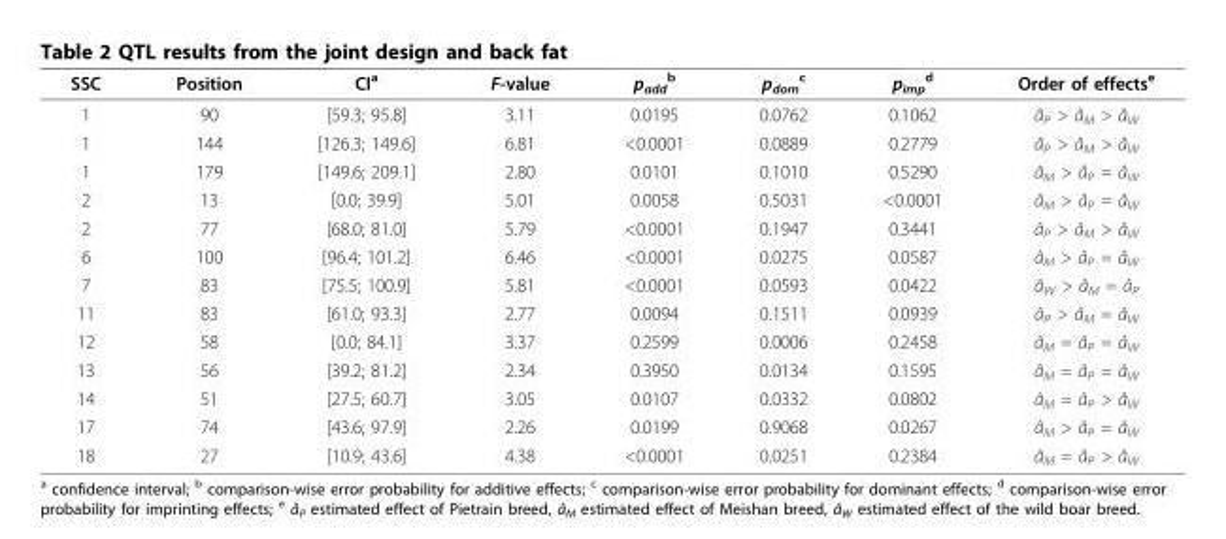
<table><thead><tr><td>SSC</td><td>Position</td><td>CI<sup>a</sup></td><td>F-value</td><td>p<sub>add</sub> <sup>b</sup></td><td>p<sub>dom</sub> <sup>c</sup></td><td>p<sub>imp</sub> <sup>d</sup></td><td>Order of effects<sup>e</sup></td></tr></thead><tbody><tr><td>1</td><td>90</td><td>[59.3; 95.8]</td><td>3.11</td><td>0.0195</td><td>0.0762</td><td>0.1062</td><td>â<sub>P</sub> &gt; â<sub>M</sub> &gt; â<sub>W</sub></td></tr><tr><td>1</td><td>144</td><td>[126.3; 149.6]</td><td>6.81</td><td>&lt;0.0001</td><td>0.0889</td><td>0.2779</td><td>â<sub>P</sub> &gt; â<sub>M</sub> &gt; â<sub>W</sub></td></tr><tr><td>1</td><td>179</td><td>[149.6; 209.1]</td><td>2.80</td><td>0.0101</td><td>0.1010</td><td>0.5290</td><td>â<sub>M</sub> &gt; â<sub>P</sub> = â<sub>W</sub></td></tr><tr><td>2</td><td>13</td><td>[0.0; 39.9]</td><td>5.01</td><td>0.0058</td><td>0.5031</td><td>&lt;0.0001</td><td>â<sub>M</sub> &gt; â<sub>P</sub> = â<sub>W</sub></td></tr><tr><td>2</td><td>77</td><td>[68.0; 81.0]</td><td>5.79</td><td>&lt;0.0001</td><td>0.1947</td><td>0.3441</td><td>â<sub>P</sub> &gt; â<sub>M</sub> &gt; â<sub>W</sub></td></tr><tr><td>6</td><td>100</td><td>[96.4; 101.2]</td><td>6.46</td><td>&lt;0.0001</td><td>0.0275</td><td>0.0587</td><td>â<sub>M</sub> &gt; â<sub>P</sub> = â<sub>W</sub></td></tr><tr><td>7</td><td>83</td><td>[75.5; 100.9]</td><td>5.81</td><td>&lt;0.0001</td><td>0.0593</td><td>0.0422</td><td>â<sub>W</sub> &gt; â<sub>M</sub> = â<sub>P</sub></td></tr><tr><td>11</td><td>83</td><td>[61.0; 93.3]</td><td>2.77</td><td>0.0094</td><td>0.1511</td><td>0.0939</td><td>â<sub>P</sub> &gt; â<sub>M</sub> = â<sub>W</sub></td></tr><tr><td>12</td><td>58</td><td>[0.0; 84.1]</td><td>3.37</td><td>0.2599</td><td>0.0006</td><td>0.2458</td><td>â<sub>M</sub> = â<sub>P</sub> = â<sub>W</sub></td></tr><tr><td>13</td><td>56</td><td>[39.2; 81.2]</td><td>2.34</td><td>0.3950</td><td>0.0134</td><td>0.1595</td><td>â<sub>M</sub> = â<sub>P</sub> = â<sub>W</sub></td></tr><tr><td>14</td><td>51</td><td>[27.5; 60.7]</td><td>3.05</td><td>0.0107</td><td>0.0332</td><td>0.0802</td><td>â<sub>M</sub> = â<sub>P</sub> &gt; â<sub>W</sub></td></tr><tr><td>17</td><td>74</td><td>[43.6; 97.9]</td><td>2.26</td><td>0.0199</td><td>0.9068</td><td>0.0267</td><td>â<sub>M</sub> &gt; â<sub>P</sub> = â<sub>W</sub></td></tr><tr><td>18</td><td>27</td><td>[10.9; 43.6]</td><td>4.38</td><td>&lt;0.0001</td><td>0.0251</td><td>0.2384</td><td>â<sub>M</sub> = â<sub>P</sub> &gt; â<sub>W</sub></td></tr></tbody></table>